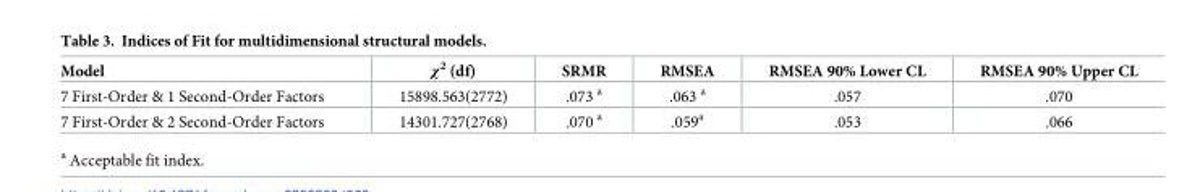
<table><thead><tr><td>Model</td><td>χ<sup>2</sup> (df)</td><td>SRMR</td><td>RMSEA</td><td>RMSEA 90% Lower CL</td><td>RMSEA 90% Upper CL</td></tr></thead><tbody><tr><td>7 First-Order &amp; 1 Second-Order Factors</td><td>15898.563(2772)</td><td>.073 <sup>a</sup></td><td>.063 <sup>a</sup></td><td>.057</td><td>.070</td></tr><tr><td>7 First-Order &amp; 2 Second-Order Factors</td><td>14301.727(2768)</td><td>.070 <sup>a</sup></td><td>.059<sup>a</sup></td><td>.053</td><td>.066</td></tr></tbody></table>